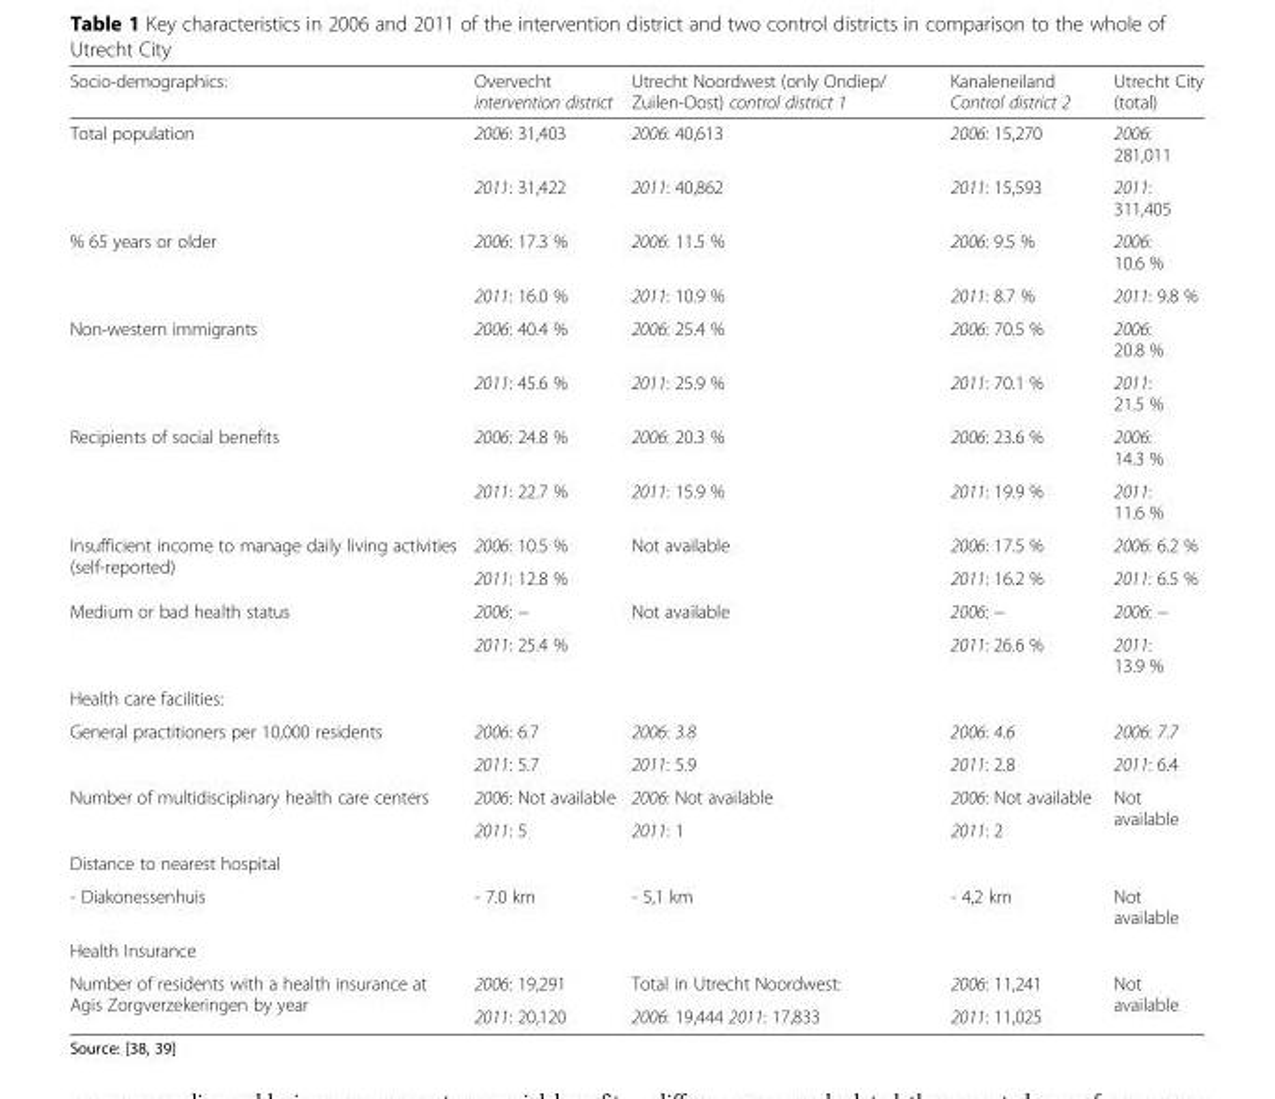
<table><thead><tr><td>Socio-demographics:</td><td>Overvecht intervention district</td><td>Utrecht Noordwest (only Ondiep/ Zuilen-Oost) control district 1</td><td>Kanaleneiland Control district 2</td><td>Utrecht City (total)</td></tr></thead><tbody><tr><td rowspan="2">Total population</td><td>2006: 31,403</td><td>2006: 40,613</td><td>2006: 15,270</td><td>2006: 281,011</td></tr><tr><td>2011: 31,422</td><td>2011: 40,862</td><td>2011: 15,593</td><td>2011: 311,405</td></tr><tr><td rowspan="2">% 65 years or older</td><td>2006: 17.3 %</td><td>2006: 11.5 %</td><td>2006: 9.5 %</td><td>2006: 10.6 %</td></tr><tr><td>2011: 16.0 %</td><td>2011: 10.9 %</td><td>2011: 8.7 %</td><td>2011: 9.8 %</td></tr><tr><td rowspan="2">Non-western immigrants</td><td>2006: 40.4 %</td><td>2006: 25.4 %</td><td>2006: 70.5 %</td><td>2006: 20.8 %</td></tr><tr><td>2011: 45.6 %</td><td>2011: 25.9 %</td><td>2011: 70.1 %</td><td>2011: 21.5 %</td></tr><tr><td rowspan="2">Recipients of social benefits</td><td>2006: 24.8 %</td><td>2006: 20.3 %</td><td>2006: 23.6 %</td><td>2006: 14.3 %</td></tr><tr><td>2011: 22.7 %</td><td>2011: 15.9 %</td><td>2011: 19.9 %</td><td>2011: 11.6 %</td></tr><tr><td rowspan="2">Insufficient income to manage daily living activities (self-reported)</td><td>2006: 10.5 %</td><td rowspan="2">Not available</td><td>2006: 17.5 %</td><td>2006: 6.2 %</td></tr><tr><td>2011: 12.8 %</td><td>2011: 16.2 %</td><td>2011: 6.5 %</td></tr><tr><td rowspan="2">Medium or bad health status</td><td>2006: −</td><td rowspan="2">Not available</td><td>2006: −</td><td>2006: −</td></tr><tr><td>2011: 25.4 %</td><td>2011: 26.6 %</td><td>2011: 13.9 %</td></tr><tr><td colspan="5">Health care facilities:</td></tr><tr><td rowspan="2">General practitioners per 10,000 residents</td><td>2006: 6.7</td><td>2006: 3.8</td><td>2006: 4.6</td><td>2006: 7.7</td></tr><tr><td>2011: 5.7</td><td>2011: 5.9</td><td>2011: 2.8</td><td>2011: 6.4</td></tr><tr><td rowspan="2">Number of multidisciplinary health care centers</td><td>2006: Not available</td><td>2006: Not available</td><td>2006: Not available</td><td rowspan="2">Not available</td></tr><tr><td>2011: 5</td><td>2011: 1</td><td>2011: 2</td></tr><tr><td colspan="5">Distance to nearest hospital</td></tr><tr><td>- Diakonessenhuis</td><td>- 7.0 km</td><td>- 5,1 km</td><td>- 4,2 km</td><td>Not available</td></tr><tr><td colspan="5">Health Insurance</td></tr><tr><td rowspan="2">Number of residents with a health insurance at Agis Zorgverzekeringen by year</td><td>2006: 19,291</td><td>Total in Utrecht Noordwest:</td><td>2006: 11,241</td><td rowspan="2">Not available</td></tr><tr><td>2011: 20,120</td><td>2006: 19,444 2011: 17,833</td><td>2011: 11,025</td></tr></tbody></table>